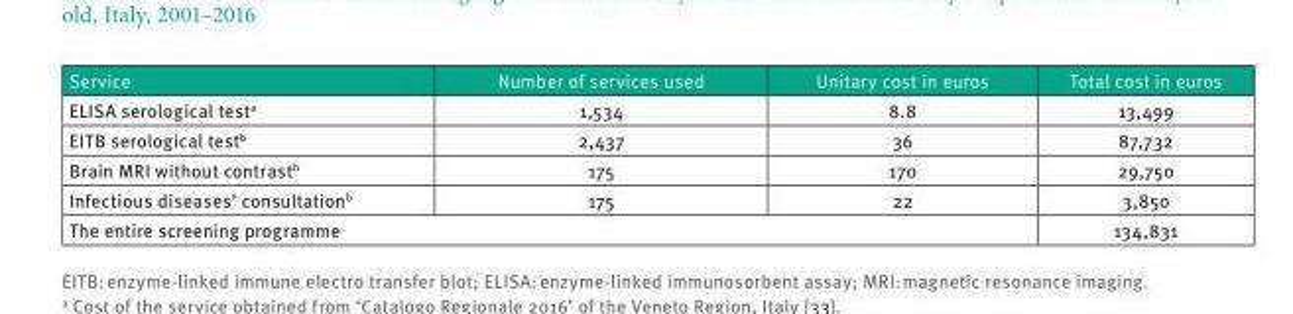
<table><thead><tr><td>Service</td><td>Number of services used</td><td>Unitary cost in euros</td><td>Total cost in euros</td></tr></thead><tbody><tr><td>ELISA serological test<sup>a</sup></td><td>1,534</td><td>8.8</td><td>13,499</td></tr><tr><td>EITB serological test<sup>b</sup></td><td>2,437</td><td>36</td><td>87,732</td></tr><tr><td>Brain MRI without contrast<sup>b</sup></td><td>175</td><td>170</td><td>29,750</td></tr><tr><td>Infectious diseases’ consultation<sup>b</sup></td><td>175</td><td>22</td><td>3,850</td></tr><tr><td colspan="3">The entire screening programme</td><td>134,831</td></tr></tbody></table>